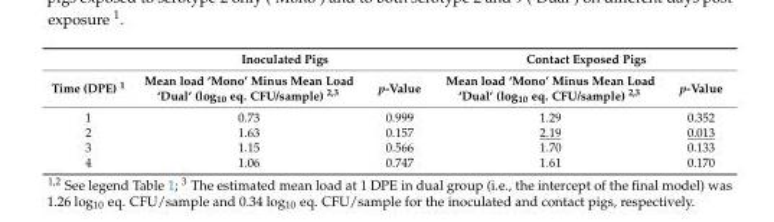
<table><thead><tr><td rowspan="2">Time (DPE) <sup>1</sup></td><td colspan="2">Inoculated Pigs</td><td colspan="2">Contact Exposed Pigs</td></tr><tr><td>Mean load ‘Mono’ Minus Mean Load ‘Dual’ (log<sub>10</sub> eq. CFU/sample) <sup>2,3</sup></td><td>p-Value</td><td>Mean load ‘Mono’ Minus Mean Load ‘Dual’ (log<sub>10</sub> eq. CFU/sample) <sup>2,3</sup></td><td>p-Value</td></tr></thead><tbody><tr><td>1</td><td>0.73</td><td>0.999</td><td>1.29</td><td>0.352</td></tr><tr><td>2</td><td>1.63</td><td>0.157</td><td>2.19</td><td>0.013</td></tr><tr><td>3</td><td>1.15</td><td>0.566</td><td>1.70</td><td>0.133</td></tr><tr><td>4</td><td>1.06</td><td>0.747</td><td>1.61</td><td>0.170</td></tr></tbody></table>